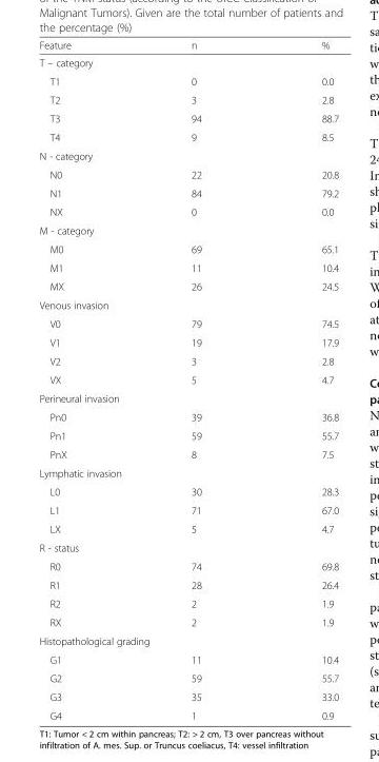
<table><thead><tr><td>Feature</td><td>n</td><td>%</td></tr></thead><tbody><tr><td colspan="3">T – category</td></tr><tr><td>T1</td><td>0</td><td>0.0</td></tr><tr><td>T2</td><td>3</td><td>2.8</td></tr><tr><td>T3</td><td>94</td><td>88.7</td></tr><tr><td>T4</td><td>9</td><td>8.5</td></tr><tr><td colspan="3">N - category</td></tr><tr><td>N0</td><td>22</td><td>20.8</td></tr><tr><td>N1</td><td>84</td><td>79.2</td></tr><tr><td>NX</td><td>0</td><td>0.0</td></tr><tr><td colspan="3">M - category</td></tr><tr><td>M0</td><td>69</td><td>65.1</td></tr><tr><td>M1</td><td>11</td><td>10.4</td></tr><tr><td>MX</td><td>26</td><td>24.5</td></tr><tr><td colspan="3">Venous invasion</td></tr><tr><td>V0</td><td>79</td><td>74.5</td></tr><tr><td>V1</td><td>19</td><td>17.9</td></tr><tr><td>V2</td><td>3</td><td>2.8</td></tr><tr><td>VX</td><td>5</td><td>4.7</td></tr><tr><td colspan="3">Perineural invasion</td></tr><tr><td>Pn0</td><td>39</td><td>36.8</td></tr><tr><td>Pn1</td><td>59</td><td>55.7</td></tr><tr><td>PnX</td><td>8</td><td>7.5</td></tr><tr><td colspan="3">Lymphatic invasion</td></tr><tr><td>L0</td><td>30</td><td>28.3</td></tr><tr><td>L1</td><td>71</td><td>67.0</td></tr><tr><td>LX</td><td>5</td><td>4.7</td></tr><tr><td colspan="3">R - status</td></tr><tr><td>R0</td><td>74</td><td>69.8</td></tr><tr><td>R1</td><td>28</td><td>26.4</td></tr><tr><td>R2</td><td>2</td><td>1.9</td></tr><tr><td>RX</td><td>2</td><td>1.9</td></tr><tr><td colspan="3">Histopathological grading</td></tr><tr><td>G1</td><td>11</td><td>10.4</td></tr><tr><td>G2</td><td>59</td><td>55.7</td></tr><tr><td>G3</td><td>35</td><td>33.0</td></tr><tr><td>G4</td><td>1</td><td>0.9</td></tr></tbody></table>